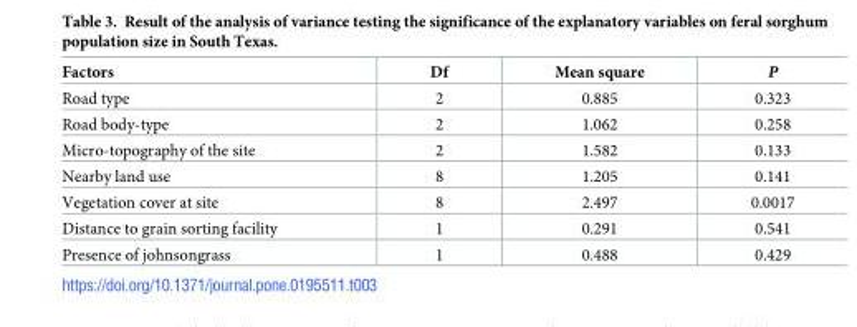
<table><thead><tr><td>Factors</td><td>Df</td><td>Mean square</td><td>P</td></tr></thead><tbody><tr><td>Road type</td><td>2</td><td>0.885</td><td>0.323</td></tr><tr><td>Road body-type</td><td>2</td><td>1.062</td><td>0.258</td></tr><tr><td>Micro-topography of the site</td><td>2</td><td>1.582</td><td>0.133</td></tr><tr><td>Nearby land use</td><td>8</td><td>1.205</td><td>0.141</td></tr><tr><td>Vegetation cover at site</td><td>8</td><td>2.497</td><td>0.0017</td></tr><tr><td>Distance to grain sorting facility</td><td>1</td><td>0.291</td><td>0.541</td></tr><tr><td>Presence of johnsongrass</td><td>1</td><td>0.488</td><td>0.429</td></tr></tbody></table>